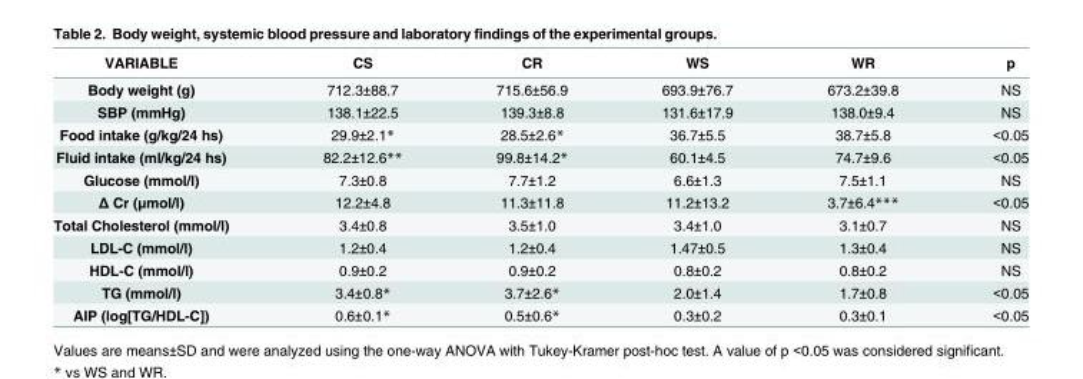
<table><thead><tr><td>VARIABLE</td><td>CS</td><td>CR</td><td>WS</td><td>WR</td><td>p</td></tr></thead><tbody><tr><td>Body weight (g)</td><td>712.3±88.7</td><td>715.6±56.9</td><td>693.9±76.7</td><td>673.2±39.8</td><td>NS</td></tr><tr><td>SBP (mmHg)</td><td>138.1±22.5</td><td>139.3±8.8</td><td>131.6±17.9</td><td>138.0±9.4</td><td>NS</td></tr><tr><td>Food intake (g/kg/24 hs)</td><td>29.9±2.1*</td><td>28.5±2.6*</td><td>36.7±5.5</td><td>38.7±5.8</td><td>&lt;0.05</td></tr><tr><td>Fluid intake (ml/kg/24 hs)</td><td>82.2±12.6**</td><td>99.8±14.2*</td><td>60.1±4.5</td><td>74.7±9.6</td><td>&lt;0.05</td></tr><tr><td>Glucose (mmol/l)</td><td>7.3±0.8</td><td>7.7±1.2</td><td>6.6±1.3</td><td>7.5±1.1</td><td>NS</td></tr><tr><td>Δ Cr (μmol/l)</td><td>12.2±4.8</td><td>11.3±11.8</td><td>11.2±13.2</td><td>3.7±6.4***</td><td>&lt;0.05</td></tr><tr><td>Total Cholesterol (mmol/l)</td><td>3.4±0.8</td><td>3.5±1.0</td><td>3.4±1.0</td><td>3.1±0.7</td><td>NS</td></tr><tr><td>LDL-C (mmol/l)</td><td>1.2±0.4</td><td>1.2±0.4</td><td>1.47±0.5</td><td>1.3±0.4</td><td>NS</td></tr><tr><td>HDL-C (mmol/l)</td><td>0.9±0.2</td><td>0.9±0.2</td><td>0.8±0.2</td><td>0.8±0.2</td><td>NS</td></tr><tr><td>TG (mmol/l)</td><td>3.4±0.8*</td><td>3.7±2.6*</td><td>2.0±1.4</td><td>1.7±0.8</td><td>&lt;0.05</td></tr><tr><td>AIP (log[TG/HDL-C])</td><td>0.6±0.1*</td><td>0.5±0.6*</td><td>0.3±0.2</td><td>0.3±0.1</td><td>&lt;0.05</td></tr></tbody></table>